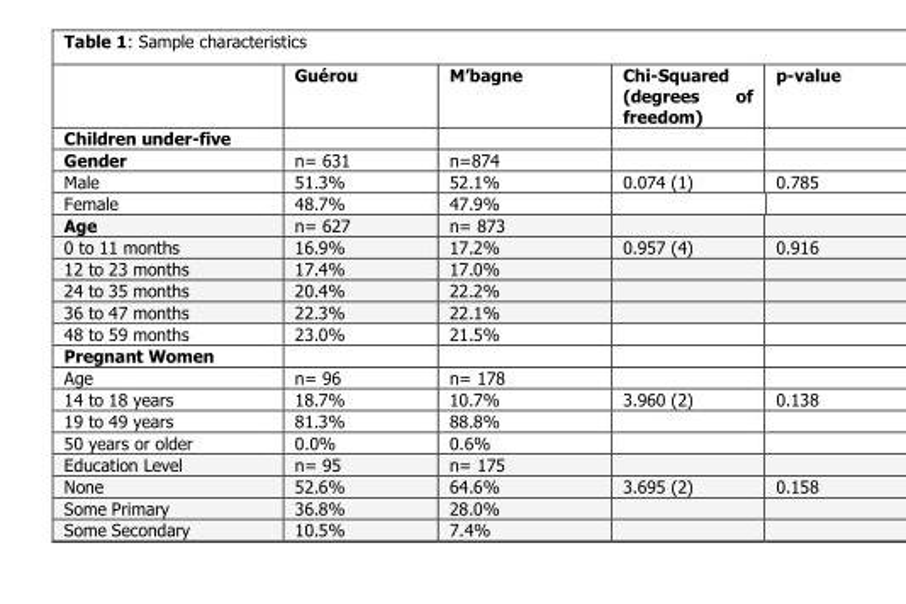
<table><thead><tr><td></td><td>Guérou</td><td>M’bagne</td><td>Chi-Squared (degrees of freedom)</td><td>p-value</td></tr></thead><tbody><tr><td colspan="5">Children under-five</td></tr><tr><td>Gender</td><td>n= 631</td><td>n=874</td><td></td><td></td></tr><tr><td>Male</td><td>51.3%</td><td>52.1%</td><td>0.074 (1)</td><td>0.785</td></tr><tr><td>Female</td><td>48.7%</td><td>47.9%</td><td></td><td></td></tr><tr><td>Age</td><td>n= 627</td><td>n= 873</td><td></td><td></td></tr><tr><td>0 to 11 months</td><td>16.9%</td><td>17.2%</td><td>0.957 (4)</td><td>0.916</td></tr><tr><td>12 to 23 months</td><td>17.4%</td><td>17.0%</td><td></td><td></td></tr><tr><td>24 to 35 months</td><td>20.4%</td><td>22.2%</td><td></td><td></td></tr><tr><td>36 to 47 months</td><td>22.3%</td><td>22.1%</td><td></td><td></td></tr><tr><td>48 to 59 months</td><td>23.0%</td><td>21.5%</td><td></td><td></td></tr><tr><td colspan="5">Pregnant Women</td></tr><tr><td>Age</td><td>n= 96</td><td>n= 178</td><td></td><td></td></tr><tr><td>14 to 18 years</td><td>18.7%</td><td>10.7%</td><td>3.960 (2)</td><td>0.138</td></tr><tr><td>19 to 49 years</td><td>81.3%</td><td>88.8%</td><td></td><td></td></tr><tr><td>50 years or older</td><td>0.0%</td><td>0.6%</td><td></td><td></td></tr><tr><td>Education Level</td><td>n= 95</td><td>n= 175</td><td></td><td></td></tr><tr><td>None</td><td>52.6%</td><td>64.6%</td><td>3.695 (2)</td><td>0.158</td></tr><tr><td>Some Primary</td><td>36.8%</td><td>28.0%</td><td></td><td></td></tr><tr><td>Some Secondary</td><td>10.5%</td><td>7.4%</td><td></td><td></td></tr></tbody></table>